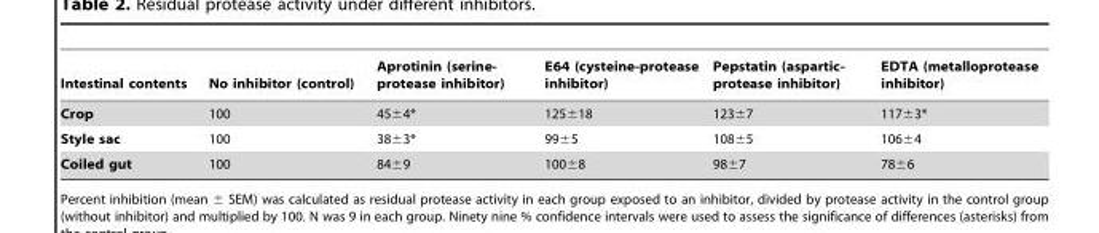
<table><thead><tr><td>Intestinal contents</td><td>No inhibitor (control)</td><td>Aprotinin (serine- protease inhibitor)</td><td>E64 (cysteine-protease inhibitor)</td><td>Pepstatin (aspartic- protease inhibitor)</td><td>EDTA (metalloprotease inhibitor)</td></tr></thead><tbody><tr><td>Crop</td><td>100</td><td>45±4*</td><td>125±18</td><td>123±7</td><td>117±3*</td></tr><tr><td>Style sac</td><td>100</td><td>38±3*</td><td>99±5</td><td>108±5</td><td>106±4</td></tr><tr><td>Coiled gut</td><td>100</td><td>84±9</td><td>100±8</td><td>98±7</td><td>78±6</td></tr></tbody></table>